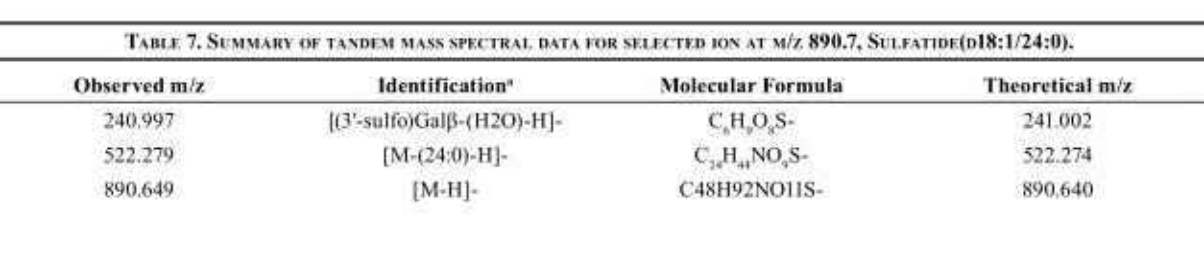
<table><thead><tr><td>Observed m/z</td><td>Identification<sup>a</sup></td><td>Molecular Formula</td><td>Theoretical m/z</td></tr></thead><tbody><tr><td>240.997</td><td>[(3′-sulfo)Galβ-(H2O)-H]-</td><td>C<sub>6</sub>H<sub>9</sub>O<sub>8</sub>S-</td><td>241.002</td></tr><tr><td>522.279</td><td>[M-(24:0)-H]-</td><td>C<sub>24</sub>H<sub>44</sub>NO<sub>9</sub>S-</td><td>522.274</td></tr><tr><td>890.649</td><td>[M-H]-</td><td>C48H92NO11S-</td><td>890.640</td></tr></tbody></table>